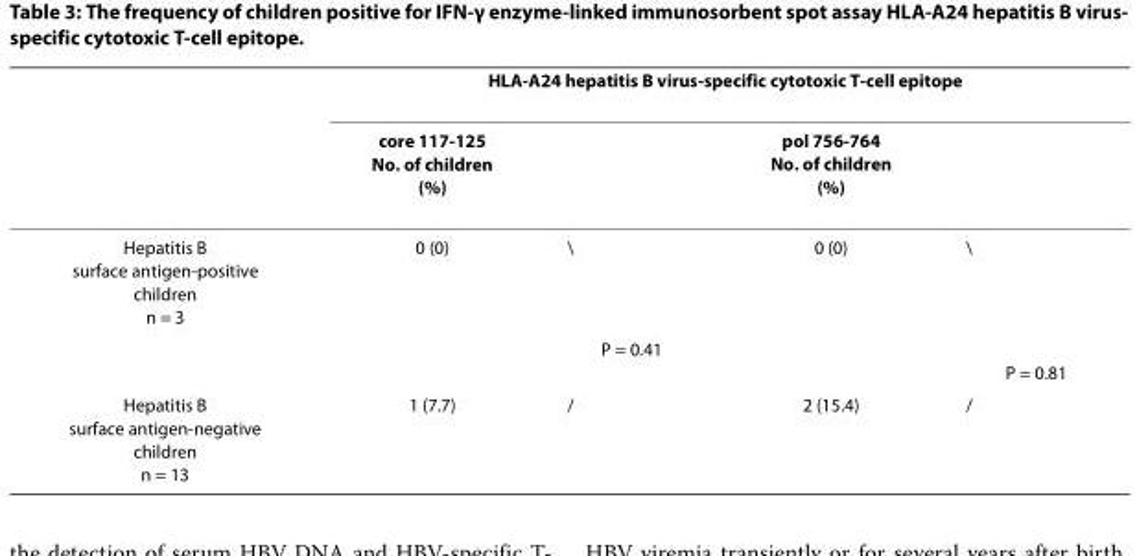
<table><thead><tr><td rowspan="2"></td><td colspan="4">HLA-A24 hepatitis B virus-specific cytotoxic T-cell epitope</td></tr><tr><td>core 117-125 No. of children (%)</td><td></td><td>pol 756-764 No. of children (%)</td><td></td></tr></thead><tbody><tr><td rowspan="2">Hepatitis B surface antigen-positive children n = 3</td><td>0 (0)</td><td>\</td><td>0 (0)</td><td>\</td></tr><tr><td></td><td>P = 0.41</td><td></td><td>P = 0.81</td></tr><tr><td>Hepatitis B surface antigen-negative children n = 13</td><td>1 (7.7)</td><td>/</td><td>2 (15.4)</td><td>/</td></tr></tbody></table>